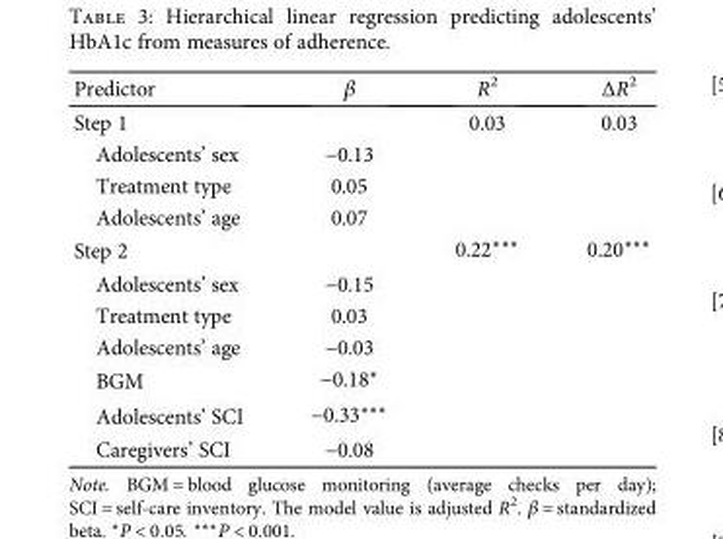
<table><thead><tr><td>Predictor</td><td>β</td><td>R<sup>2</sup></td><td>ΔR<sup>2</sup></td></tr></thead><tbody><tr><td>Step 1</td><td></td><td>0.03</td><td>0.03</td></tr><tr><td>Adolescents’ sex</td><td>−0.13</td><td></td><td></td></tr><tr><td>Treatment type</td><td>0.05</td><td></td><td></td></tr><tr><td>Adolescents’ age</td><td>0.07</td><td></td><td></td></tr><tr><td>Step 2</td><td></td><td>0.22∗∗∗</td><td>0.20∗∗∗</td></tr><tr><td>Adolescents’ sex</td><td>−0.15</td><td></td><td></td></tr><tr><td>Treatment type</td><td>0.03</td><td></td><td></td></tr><tr><td>Adolescents’ age</td><td>−0.03</td><td></td><td></td></tr><tr><td>BGM</td><td>−0.18∗</td><td></td><td></td></tr><tr><td>Adolescents’ SCI</td><td>−0.33∗∗∗</td><td></td><td></td></tr><tr><td>Caregivers’ SCI</td><td>−0.08</td><td></td><td></td></tr></tbody></table>